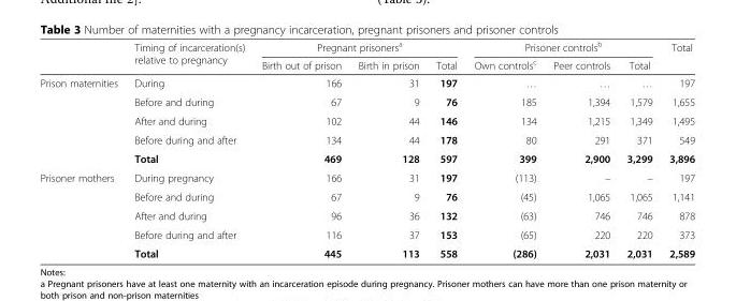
<table><thead><tr><td rowspan="2"></td><td rowspan="2">Timing of incarceration(s) relative to pregnancy</td><td colspan="3">Pregnant prisoners<sup>a</sup></td><td colspan="3">Prisoner controls<sup>b</sup></td><td rowspan="2">Total</td></tr><tr><td>Birth out of prison</td><td>Birth in prison</td><td>Total</td><td>Own controls<sup>c</sup></td><td>Peer controls</td><td>Total</td></tr></thead><tbody><tr><td rowspan="5">Prison maternities</td><td>During</td><td>166</td><td>31</td><td>197</td><td>…</td><td>…</td><td>…</td><td>197</td></tr><tr><td>Before and during</td><td>67</td><td>9</td><td>76</td><td>185</td><td>1,394</td><td>1,579</td><td>1,655</td></tr><tr><td>After and during</td><td>102</td><td>44</td><td>146</td><td>134</td><td>1,215</td><td>1,349</td><td>1,495</td></tr><tr><td>Before during and after</td><td>134</td><td>44</td><td>178</td><td>80</td><td>291</td><td>371</td><td>549</td></tr><tr><td>Total</td><td>469</td><td>128</td><td>597</td><td>399</td><td>2,900</td><td>3,299</td><td>3,896</td></tr><tr><td rowspan="5">Prisoner mothers</td><td>During pregnancy</td><td>166</td><td>31</td><td>197</td><td>(113)</td><td>–</td><td>–</td><td>197</td></tr><tr><td>Before and during</td><td>67</td><td>9</td><td>76</td><td>(45)</td><td>1,065</td><td>1,065</td><td>1,141</td></tr><tr><td>After and during</td><td>96</td><td>36</td><td>132</td><td>(63)</td><td>746</td><td>746</td><td>878</td></tr><tr><td>Before during and after</td><td>116</td><td>37</td><td>153</td><td>(65)</td><td>220</td><td>220</td><td>373</td></tr><tr><td>Total</td><td>445</td><td>113</td><td>558</td><td>(286)</td><td>2,031</td><td>2,031</td><td>2,589</td></tr></tbody></table>